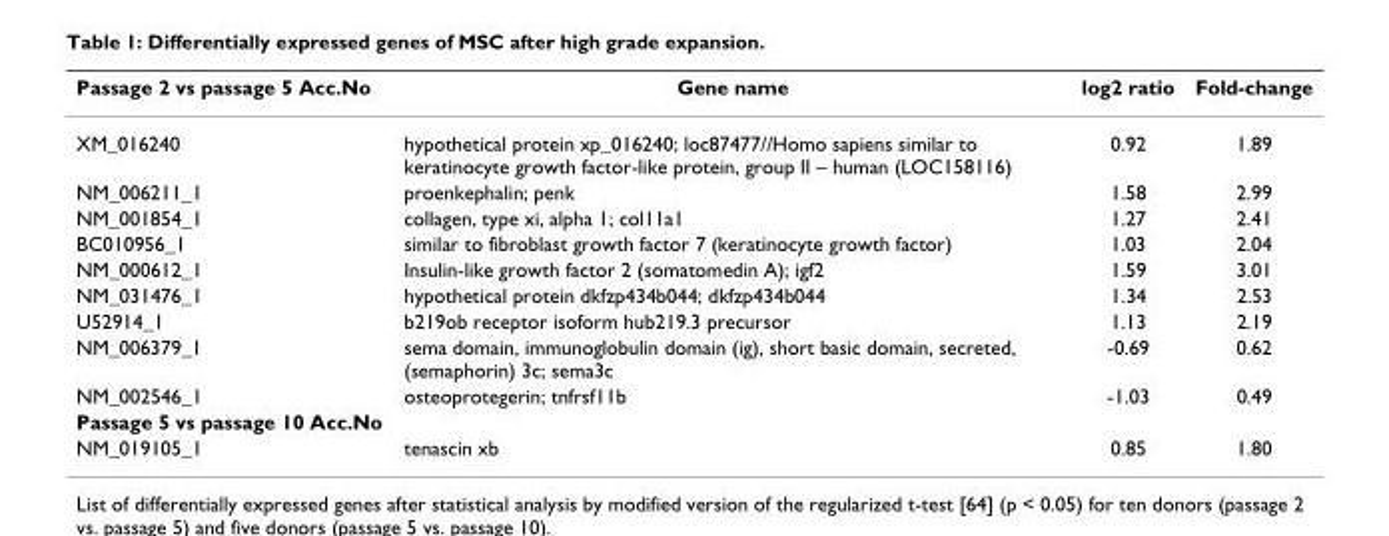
<table><thead><tr><td>Passage 2 vs passage 5 Acc.No</td><td>Gene name</td><td>log2 ratio</td><td>Fold-change</td></tr></thead><tbody><tr><td>XM_016240</td><td>hypothetical protein xp_016240; loc87477//Homo sapiens similar to keratinocyte growth factor-like protein, group II – human (LOC158116)</td><td>0.92</td><td>1.89</td></tr><tr><td>NM_006211_1</td><td>proenkephalin; penk</td><td>1.58</td><td>2.99</td></tr><tr><td>NM_001854_1</td><td>collagen, type xi, alpha 1; col11a1</td><td>1.27</td><td>2.41</td></tr><tr><td>BC010956_1</td><td>similar to fibroblast growth factor 7 (keratinocyte growth factor)</td><td>1.03</td><td>2.04</td></tr><tr><td>NM_000612_1</td><td>Insulin-like growth factor 2 (somatomedin A); igf2</td><td>1.59</td><td>3.01</td></tr><tr><td>NM_031476_1</td><td>hypothetical protein dkfzp434b044; dkfzp434b044</td><td>1.34</td><td>2.53</td></tr><tr><td>U52914_1</td><td>b219ob receptor isoform hub219.3 precursor</td><td>1.13</td><td>2.19</td></tr><tr><td>NM_006379_1</td><td>sema domain, immunoglobulin domain (ig), short basic domain, secreted, (semaphorin) 3c; sema3c</td><td>-0.69</td><td>0.62</td></tr><tr><td>NM_002546_1</td><td>osteoprotegerin; tnfrsf11b</td><td>-1.03</td><td>0.49</td></tr><tr><td colspan="4">Passage 5 vs passage 10 Acc.No</td></tr><tr><td>NM_019105_1</td><td>tenascin xb</td><td>0.85</td><td>1.80</td></tr></tbody></table>